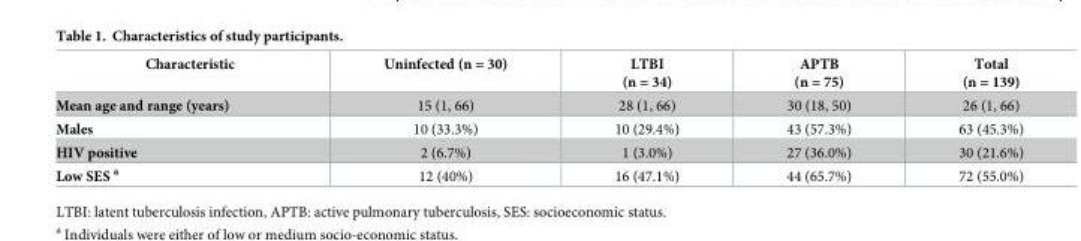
<table><thead><tr><td>Characteristic</td><td>Uninfected (n = 30)</td><td>LTBI (n = 34)</td><td>APTB (n = 75)</td><td>Total (n = 139)</td></tr></thead><tbody><tr><td>Mean age and range (years)</td><td>15 (1, 66)</td><td>28 (1, 66)</td><td>30 (18, 50)</td><td>26 (1, 66)</td></tr><tr><td>Males</td><td>10 (33.3%)</td><td>10 (29.4%)</td><td>43 (57.3%)</td><td>63 (45.3%)</td></tr><tr><td>HIV positive</td><td>2 (6.7%)</td><td>1 (3.0%)</td><td>27 (36.0%)</td><td>30 (21.6%)</td></tr><tr><td>Low SES <sup>a</sup></td><td>12 (40%)</td><td>16 (47.1%)</td><td>44 (65.7%)</td><td>72 (55.0%)</td></tr></tbody></table>